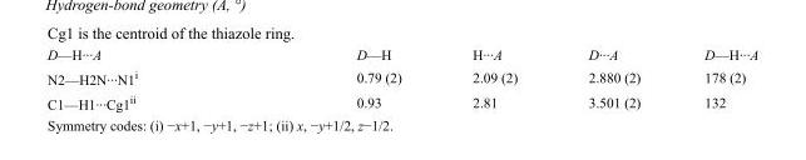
<table><tbody><tr><td>D—H···A</td><td>D—H</td><td>H···A</td><td>D···A</td><td>D—H···A</td></tr><tr><td>N2—H2N···N1<sup>i</sup></td><td>0.79 (2)</td><td>2.09 (2)</td><td>2.880 (2)</td><td>178 (2)</td></tr><tr><td>C1—H1···Cg1<sup>ii</sup></td><td>0.93</td><td>2.81</td><td>3.501 (2)</td><td>132</td></tr></tbody></table>